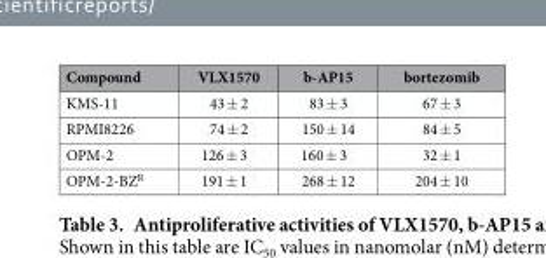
<table><thead><tr><td>Compound</td><td>VLX1570</td><td>b-AP15</td><td>bortezomib</td></tr></thead><tbody><tr><td>KMS-11</td><td>43 ± 2</td><td>83 ± 3</td><td>67 ± 3</td></tr><tr><td>RPMI8226</td><td>74 ± 2</td><td>150 ± 14</td><td>84 ± 5</td></tr><tr><td>OPM-2</td><td>126 ± 3</td><td>160 ± 3</td><td>32 ± 1</td></tr><tr><td>OPM-2-BZ<sup>R</sup></td><td>191 ± 1</td><td>268 ± 12</td><td>204 ± 10</td></tr></tbody></table>